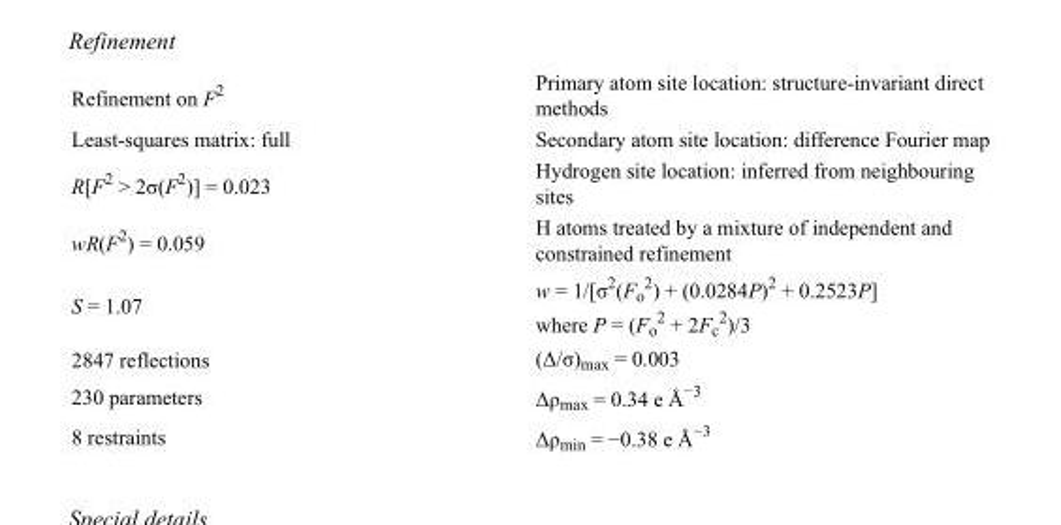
<table><tbody><tr><td>Refinement on F<sup>2</sup></td><td>Primary atom site location: structure-invariant direct methods</td></tr><tr><td>Least-squares matrix: full</td><td>Secondary atom site location: difference Fourier map</td></tr><tr><td>R[F<sup>2</sup> &gt; 2σ(F<sup>2</sup>)] = 0.023</td><td>Hydrogen site location: inferred from neighbouring sites</td></tr><tr><td>wR(F<sup>2</sup>) = 0.059</td><td>H atoms treated by a mixture of independent and constrained refinement</td></tr><tr><td>S = 1.07</td><td>w = 1/[σ<sup>2</sup>(F<sub>o</sub> <sup>2</sup>) + (0.0284P)<sup>2</sup> + 0.2523P] where P = (F<sub>o</sub> <sup>2</sup> + 2F<sub>c</sub> <sup>2</sup>)/3</td></tr><tr><td>2847 reflections</td><td>(Δ/σ)<sub>max</sub> = 0.003</td></tr><tr><td>230 parameters</td><td>Δρ<sub>max</sub> = 0.34 e Å<sup>−3</sup></td></tr><tr><td>8 restraints</td><td>Δρ<sub>min</sub> = −0.38 e Å<sup>−3</sup></td></tr></tbody></table>